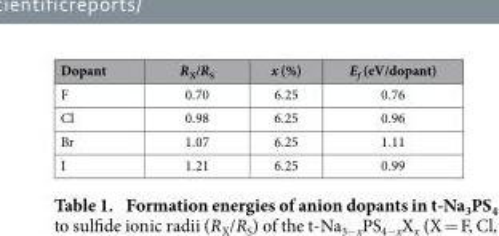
<table><thead><tr><td>Dopant</td><td>R<sub>X</sub>/R<sub>S</sub></td><td>x (%)</td><td>E<sub>f</sub> (eV/dopant)</td></tr></thead><tbody><tr><td>F</td><td>0.70</td><td>6.25</td><td>0.76</td></tr><tr><td>Cl</td><td>0.98</td><td>6.25</td><td>0.96</td></tr><tr><td>Br</td><td>1.07</td><td>6.25</td><td>1.11</td></tr><tr><td>I</td><td>1.21</td><td>6.25</td><td>0.99</td></tr></tbody></table>